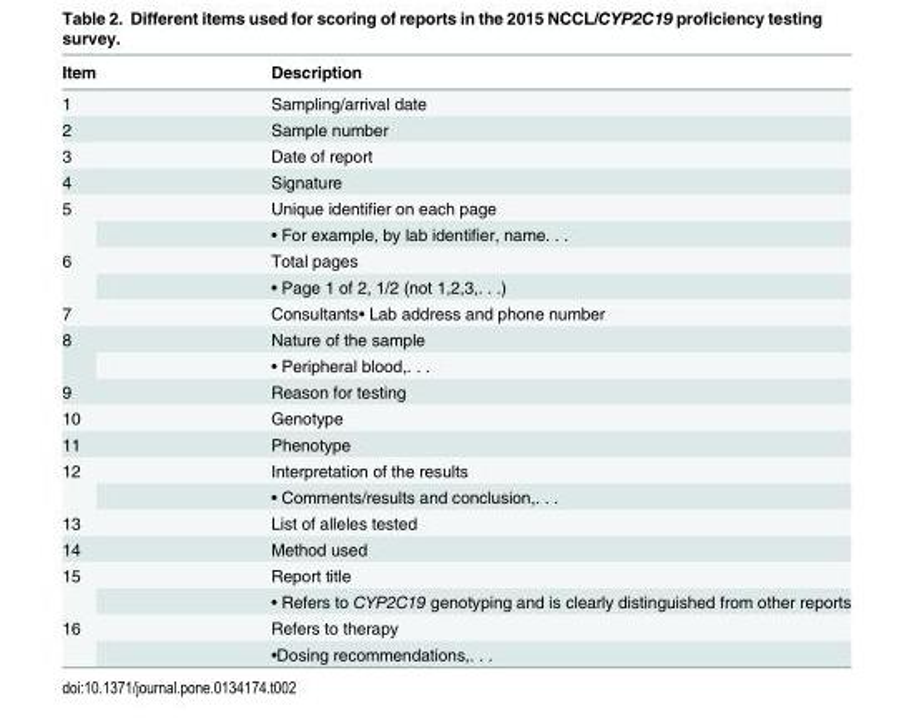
<table><thead><tr><td>Item</td><td>Description</td></tr></thead><tbody><tr><td>1</td><td>Sampling/arrival date</td></tr><tr><td>2</td><td>Sample number</td></tr><tr><td>3</td><td>Date of report</td></tr><tr><td>4</td><td>Signature</td></tr><tr><td rowspan="2">5</td><td>Unique identifier on each page</td></tr><tr><td>• For example, by lab identifier, name. . .</td></tr><tr><td rowspan="2">6</td><td>Total pages</td></tr><tr><td>• Page 1 of 2, 1/2 (not 1,2,3,. . .)</td></tr><tr><td>7</td><td>Consultants• Lab address and phone number</td></tr><tr><td rowspan="2">8</td><td>Nature of the sample</td></tr><tr><td>• Peripheral blood,. . .</td></tr><tr><td>9</td><td>Reason for testing</td></tr><tr><td>10</td><td>Genotype</td></tr><tr><td>11</td><td>Phenotype</td></tr><tr><td rowspan="2">12</td><td>Interpretation of the results</td></tr><tr><td>• Comments/results and conclusion,. . .</td></tr><tr><td>13</td><td>List of alleles tested</td></tr><tr><td>14</td><td>Method used</td></tr><tr><td rowspan="2">15</td><td>Report title</td></tr><tr><td>• Refers to CYP2C19 genotyping and is clearly distinguished from other reports</td></tr><tr><td rowspan="2">16</td><td>Refers to therapy</td></tr><tr><td>•Dosing recommendations,. . .</td></tr></tbody></table>